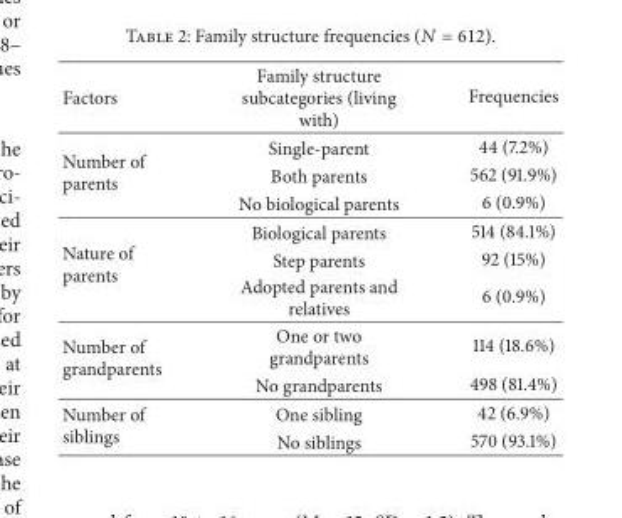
<table><thead><tr><td>Factors</td><td>Family structure subcategories (living with)</td><td>Frequencies</td></tr></thead><tbody><tr><td rowspan="3">Number of parents</td><td>Single-parent</td><td>44 (7.2%)</td></tr><tr><td>Both parents</td><td>562 (91.9%)</td></tr><tr><td>No biological parents</td><td>6 (0.9%)</td></tr><tr><td rowspan="3">Nature of parents</td><td>Biological parents</td><td>514 (84.1%)</td></tr><tr><td>Step parents</td><td>92 (15%)</td></tr><tr><td>Adopted parents and relatives</td><td>6 (0.9%)</td></tr><tr><td rowspan="2">Number of grandparents</td><td>One or two grandparents</td><td>114 (18.6%)</td></tr><tr><td>No grandparents</td><td>498 (81.4%)</td></tr><tr><td rowspan="2">Number of siblings</td><td>One sibling</td><td>42 (6.9%)</td></tr><tr><td>No siblings</td><td>570 (93.1%)</td></tr></tbody></table>